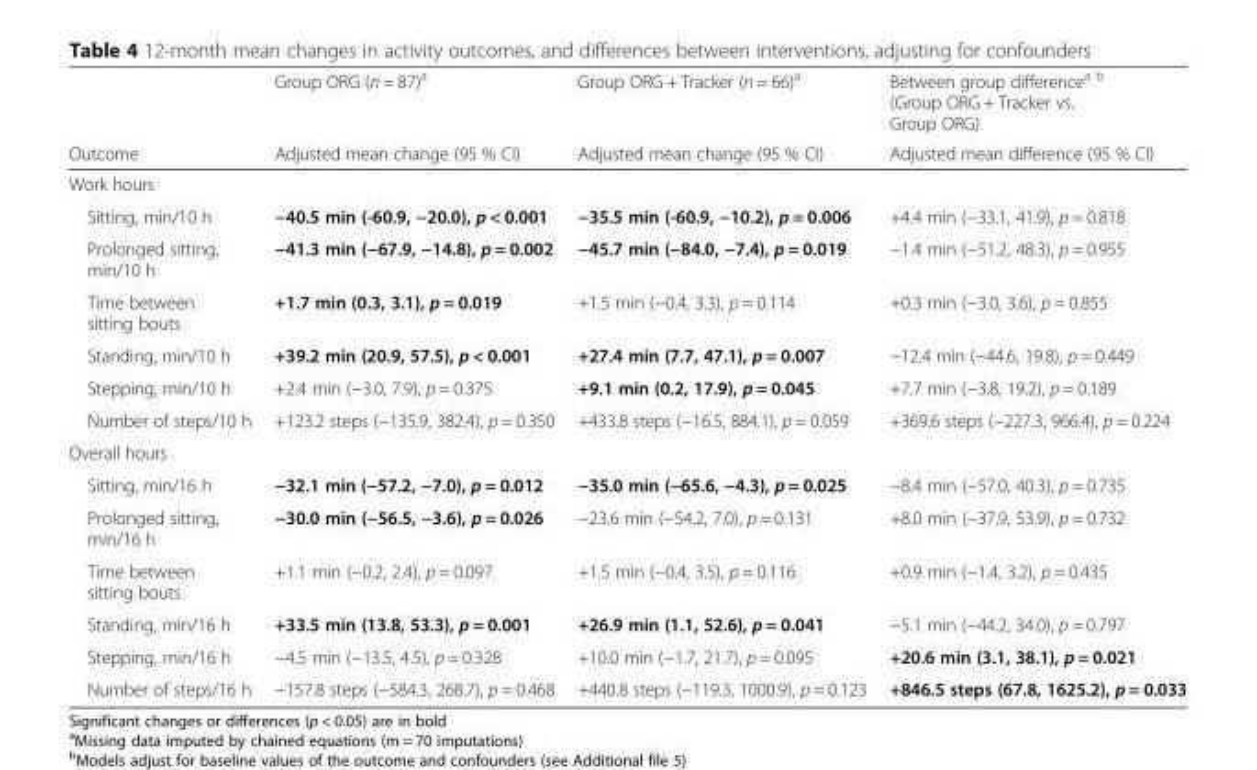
<table><thead><tr><td rowspan="2">Outcome</td><td rowspan="2">Group ORG (n = 87)<sup>a</sup> Adjusted mean change (95 % CI)</td><td rowspan="2">Group ORG + Tracker (n = 66)<sup>a</sup> Adjusted mean change (95 % CI)</td><td rowspan="2">Between group difference<sup>a b</sup> (Group ORG + Tracker vs. Group ORG) Adjusted mean difference (95 % CI)</td></tr><tr></tr></thead><tbody><tr><td colspan="4">Work hours</td></tr><tr><td>Sitting, min/10 h</td><td>−40.5 min (-60.9, −20.0), p &lt; 0.001</td><td>−35.5 min (-60.9, −10.2), p = 0.006</td><td>+4.4 min (−33.1, 41.9), p = 0.818</td></tr><tr><td>Prolonged sitting, min/10 h</td><td>−41.3 min (−67.9, −14.8), p = 0.002</td><td>−45.7 min (−84.0, −7.4), p = 0.019</td><td>−1.4 min (−51.2, 48.3), p = 0.955</td></tr><tr><td>Time between sitting bouts</td><td>+1.7 min (0.3, 3.1), p = 0.019</td><td>+1.5 min (−0.4, 3.3), p = 0.114</td><td>+0.3 min (−3.0, 3.6), p = 0.855</td></tr><tr><td>Standing, min/10 h</td><td>+39.2 min (20.9, 57.5), p &lt; 0.001</td><td>+27.4 min (7.7, 47.1), p = 0.007</td><td>−12.4 min (−44.6, 19.8), p = 0.449</td></tr><tr><td>Stepping, min/10 h</td><td>+2.4 min (−3.0, 7.9), p = 0.375</td><td>+9.1 min (0.2, 17.9), p = 0.045</td><td>+7.7 min (−3.8, 19.2), p = 0.189</td></tr><tr><td>Number of steps/10 h</td><td>+123.2 steps (−135.9, 382.4), p = 0.350</td><td>+433.8 steps (−16.5, 884.1), p = 0.059</td><td>+369.6 steps (−227.3, 966.4), p = 0.224</td></tr><tr><td colspan="4">Overall hours</td></tr><tr><td>Sitting, min/16 h</td><td>−32.1 min (−57.2, −7.0), p = 0.012</td><td>−35.0 min (−65.6, −4.3), p = 0.025</td><td>−8.4 min (−57.0, 40.3), p = 0.735</td></tr><tr><td>Prolonged sitting, min/16 h</td><td>−30.0 min (−56.5, −3.6), p = 0.026</td><td>−23.6 min (−54.2, 7.0), p = 0.131</td><td>+8.0 min (−37.9, 53.9), p = 0.732</td></tr><tr><td>Time between sitting bouts</td><td>+1.1 min (−0.2, 2.4), p = 0.097</td><td>+1.5 min (−0.4, 3.5), p = 0.116</td><td>+0.9 min (−1.4, 3.2), p = 0.435</td></tr><tr><td>Standing, min/16 h</td><td>+33.5 min (13.8, 53.3), p = 0.001</td><td>+26.9 min (1.1, 52.6), p = 0.041</td><td>−5.1 min (−44.2, 34.0), p = 0.797</td></tr><tr><td>Stepping, min/16 h</td><td>−4.5 min (−13.5, 4.5), p = 0.328</td><td>+10.0 min (−1.7, 21.7), p = 0.095</td><td>+20.6 min (3.1, 38.1), p = 0.021</td></tr><tr><td>Number of steps/16 h</td><td>−157.8 steps (−584.3, 268.7), p = 0.468</td><td>+440.8 steps (−119.3, 1000.9), p = 0.123</td><td>+846.5 steps (67.8, 1625.2), p = 0.033</td></tr></tbody></table>